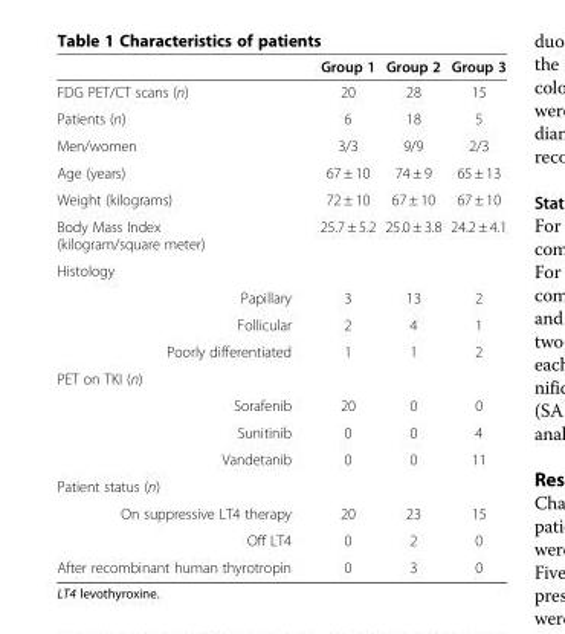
<table><thead><tr><td></td><td>Group 1</td><td>Group 2</td><td>Group 3</td></tr></thead><tbody><tr><td>FDG PET/CT scans (n)</td><td>20</td><td>28</td><td>15</td></tr><tr><td>Patients (n)</td><td>6</td><td>18</td><td>5</td></tr><tr><td>Men/women</td><td>3/3</td><td>9/9</td><td>2/3</td></tr><tr><td>Age (years)</td><td>67 ± 10</td><td>74 ± 9</td><td>65 ± 13</td></tr><tr><td>Weight (kilograms)</td><td>72 ± 10</td><td>67 ± 10</td><td>67 ± 10</td></tr><tr><td>Body Mass Index (kilogram/square meter)</td><td>25.7 ± 5.2</td><td>25.0 ± 3.8</td><td>24.2 ± 4.1</td></tr><tr><td colspan="4">Histology</td></tr><tr><td>Papillary</td><td>3</td><td>13</td><td>2</td></tr><tr><td>Follicular</td><td>2</td><td>4</td><td>1</td></tr><tr><td>Poorly differentiated</td><td>1</td><td>1</td><td>2</td></tr><tr><td colspan="4">PET on TKI (n)</td></tr><tr><td>Sorafenib</td><td>20</td><td>0</td><td>0</td></tr><tr><td>Sunitinib</td><td>0</td><td>0</td><td>4</td></tr><tr><td>Vandetanib</td><td>0</td><td>0</td><td>11</td></tr><tr><td colspan="4">Patient status (n)</td></tr><tr><td>On suppressive LT4 therapy</td><td>20</td><td>23</td><td>15</td></tr><tr><td>Off LT4</td><td>0</td><td>2</td><td>0</td></tr><tr><td>After recombinant human thyrotropin</td><td>0</td><td>3</td><td>0</td></tr></tbody></table>